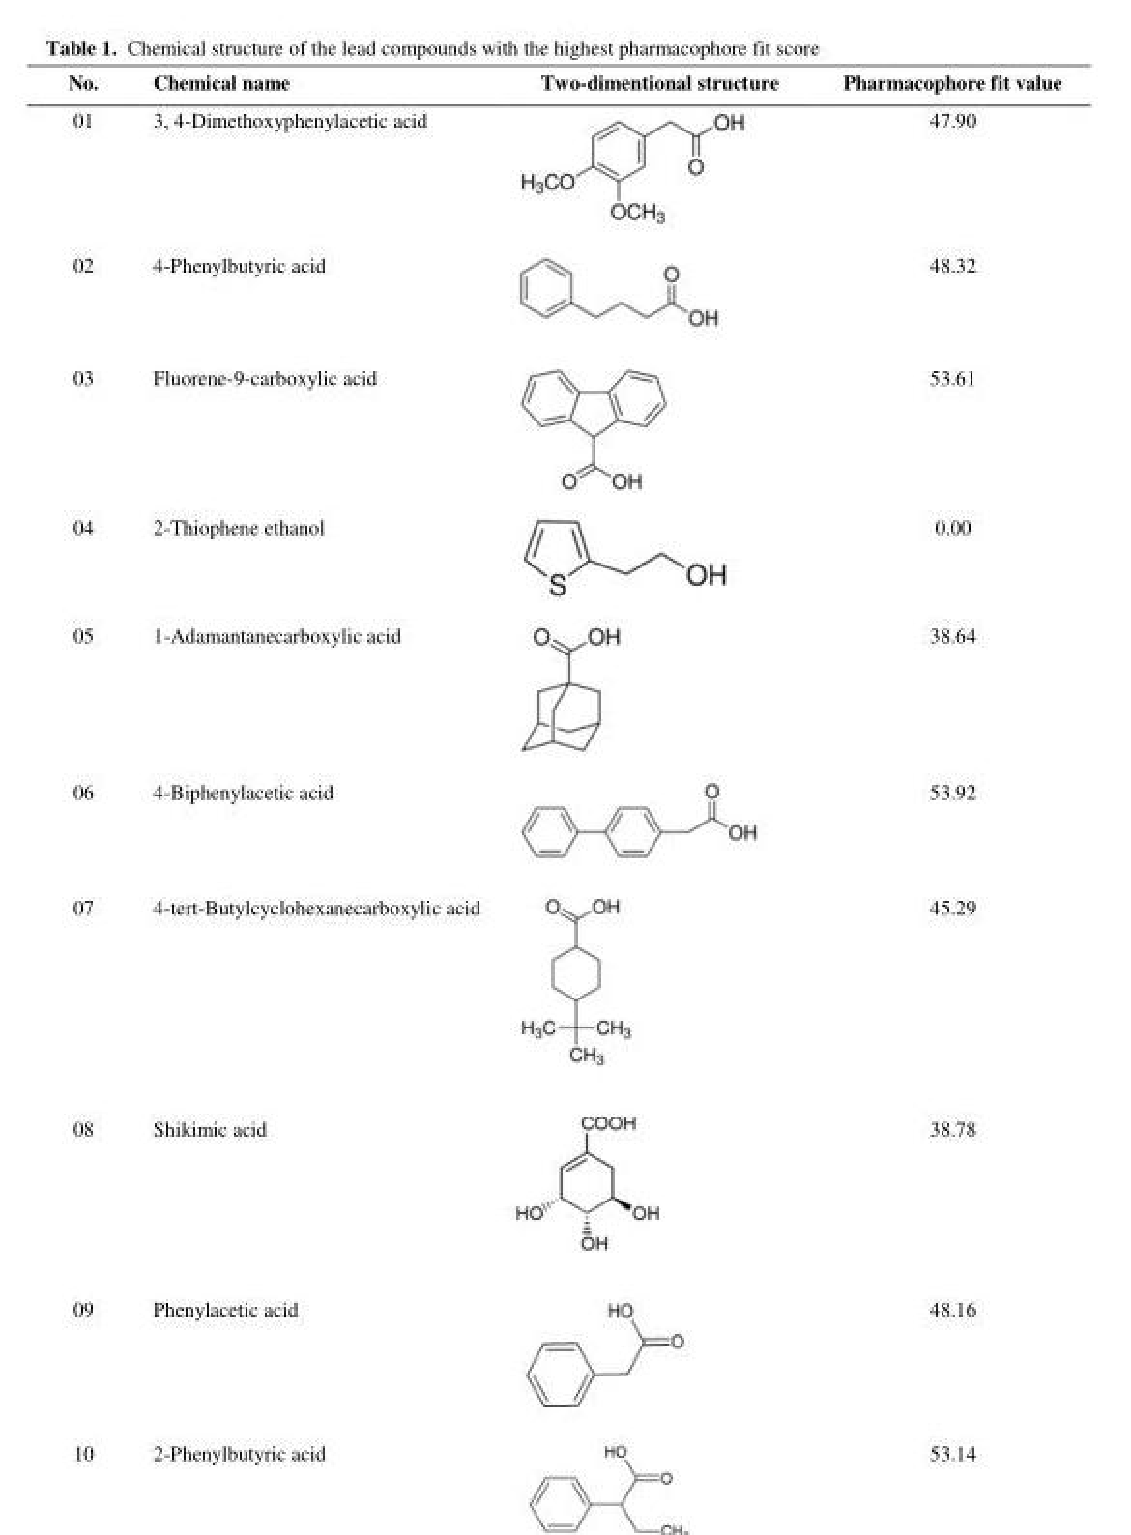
<table><thead><tr><td>No.</td><td>Chemical name</td><td>Two-dimentional structure</td><td>Pharmacophore fit value</td></tr></thead><tbody><tr><td>01</td><td>3, 4-Dimethoxyphenylacetic acid</td><td></td><td>47.90</td></tr><tr><td>02</td><td>4-Phenylbutyric acid</td><td></td><td>48.32</td></tr><tr><td>03</td><td>Fluorene-9-carboxylic acid</td><td></td><td>53.61</td></tr><tr><td>04</td><td>2-Thiophene ethanol</td><td></td><td>0.00</td></tr><tr><td>05</td><td>1-Adamantanecarboxylic acid</td><td></td><td>38.64</td></tr><tr><td>06</td><td>4-Biphenylacetic acid</td><td></td><td>53.92</td></tr><tr><td>07</td><td>4-tert-Butylcyclohexanecarboxylic acid</td><td></td><td>45.29</td></tr><tr><td>08</td><td>Shikimic acid</td><td></td><td>38.78</td></tr><tr><td>09</td><td>Phenylacetic acid</td><td></td><td>48.16</td></tr><tr><td>10</td><td>2-Phenylbutyric acid</td><td></td><td>53.14</td></tr></tbody></table>